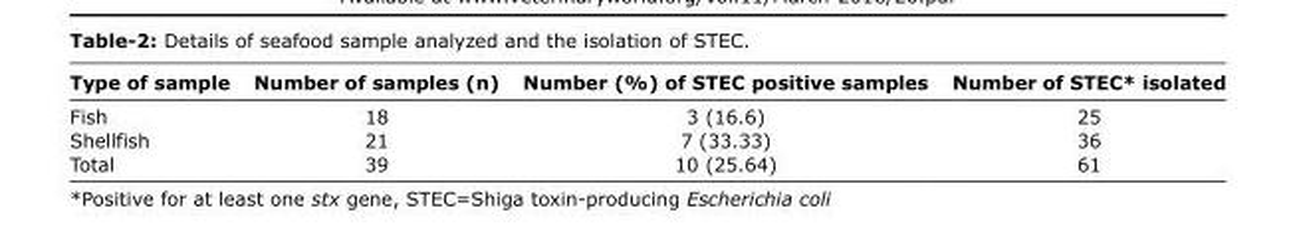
<table><thead><tr><td>Type of sample</td><td>Number of samples (n)</td><td>Number (%) of STEC positive samples</td><td>Number of STEC* isolated</td></tr></thead><tbody><tr><td>Fish</td><td>18</td><td>3 (16.6)</td><td>25</td></tr><tr><td>Shellfish</td><td>21</td><td>7 (33.33)</td><td>36</td></tr><tr><td>Total</td><td>39</td><td>10 (25.64)</td><td>61</td></tr></tbody></table>